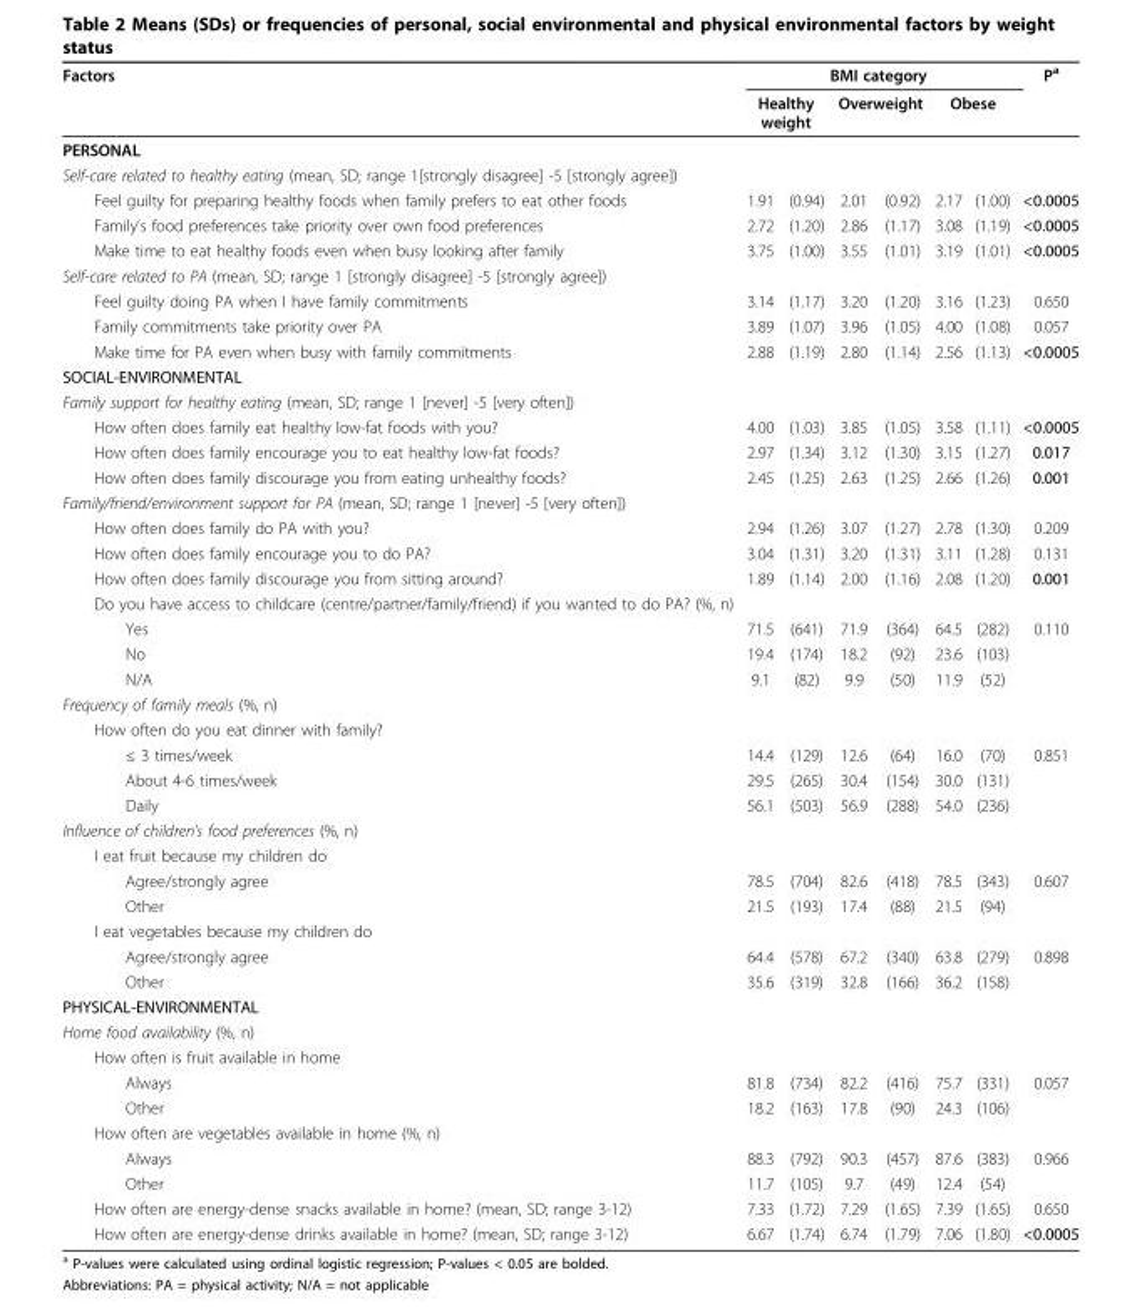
<table><thead><tr><td rowspan="3">Factors PERSONAL</td><td colspan="6">BMI category</td><td rowspan="3">P<sup>a</sup></td></tr><tr><td colspan="2">Healthy weight</td><td colspan="2">Overweight</td><td colspan="2">Obese</td></tr><tr><td></td><td></td><td></td><td></td><td></td><td></td></tr></thead><tbody><tr><td colspan="8">Self-care related to healthy eating (mean, SD; range 1[strongly disagree] -5 [strongly agree])</td></tr><tr><td>Feel guilty for preparing healthy foods when family prefers to eat other foods</td><td>1.91</td><td>(0.94)</td><td>2.01</td><td>(0.92)</td><td>2.17</td><td>(1.00)</td><td>&lt;0.0005</td></tr><tr><td>Family’s food preferences take priority over own food preferences</td><td>2.72</td><td>(1.20)</td><td>2.86</td><td>(1.17)</td><td>3.08</td><td>(1.19)</td><td>&lt;0.0005</td></tr><tr><td>Make time to eat healthy foods even when busy looking after family</td><td>3.75</td><td>(1.00)</td><td>3.55</td><td>(1.01)</td><td>3.19</td><td>(1.01)</td><td>&lt;0.0005</td></tr><tr><td colspan="8">Self-care related to PA (mean, SD; range 1 [strongly disagree] -5 [strongly agree])</td></tr><tr><td>Feel guilty doing PA when I have family commitments</td><td>3.14</td><td>(1.17)</td><td>3.20</td><td>(1.20)</td><td>3.16</td><td>(1.23)</td><td>0.650</td></tr><tr><td>Family commitments take priority over PA</td><td>3.89</td><td>(1.07)</td><td>3.96</td><td>(1.05)</td><td>4.00</td><td>(1.08)</td><td>0.057</td></tr><tr><td>Make time for PA even when busy with family commitments</td><td>2.88</td><td>(1.19)</td><td>2.80</td><td>(1.14)</td><td>2.56</td><td>(1.13)</td><td>&lt;0.0005</td></tr><tr><td colspan="8">SOCIAL-ENVIRONMENTAL</td></tr><tr><td colspan="8">Family support for healthy eating (mean, SD; range 1 [never] -5 [very often])</td></tr><tr><td>How often does family eat healthy low-fat foods with you?</td><td>4.00</td><td>(1.03)</td><td>3.85</td><td>(1.05)</td><td>3.58</td><td>(1.11)</td><td>&lt;0.0005</td></tr><tr><td>How often does family encourage you to eat healthy low-fat foods?</td><td>2.97</td><td>(1.34)</td><td>3.12</td><td>(1.30)</td><td>3.15</td><td>(1.27)</td><td>0.017</td></tr><tr><td>How often does family discourage you from eating unhealthy foods?</td><td>2.45</td><td>(1.25)</td><td>2.63</td><td>(1.25)</td><td>2.66</td><td>(1.26)</td><td>0.001</td></tr><tr><td colspan="8">Family/friend/environment support for PA (mean, SD; range 1 [never] -5 [very often])</td></tr><tr><td>How often does family do PA with you?</td><td>2.94</td><td>(1.26)</td><td>3.07</td><td>(1.27)</td><td>2.78</td><td>(1.30)</td><td>0.209</td></tr><tr><td>How often does family encourage you to do PA?</td><td>3.04</td><td>(1.31)</td><td>3.20</td><td>(1.31)</td><td>3.11</td><td>(1.28)</td><td>0.131</td></tr><tr><td>How often does family discourage you from sitting around?</td><td>1.89</td><td>(1.14)</td><td>2.00</td><td>(1.16)</td><td>2.08</td><td>(1.20)</td><td>0.001</td></tr><tr><td colspan="8">Do you have access to childcare (centre/partner/family/friend) if you wanted to do PA? (%, n)</td></tr><tr><td>Yes</td><td>71.5</td><td>(641)</td><td>71.9</td><td>(364)</td><td>64.5</td><td>(282)</td><td>0.110</td></tr><tr><td>No</td><td>19.4</td><td>(174)</td><td>18.2</td><td>(92)</td><td>23.6</td><td>(103)</td><td></td></tr><tr><td>N/A</td><td>9.1</td><td>(82)</td><td>9.9</td><td>(50)</td><td>11.9</td><td>(52)</td><td></td></tr><tr><td colspan="8">Frequency of family meals (%, n)</td></tr><tr><td colspan="8">How often do you eat dinner with family?</td></tr><tr><td>≤ 3 times/week</td><td>14.4</td><td>(129)</td><td>12.6</td><td>(64)</td><td>16.0</td><td>(70)</td><td>0.851</td></tr><tr><td>About 4-6 times/week</td><td>29.5</td><td>(265)</td><td>30.4</td><td>(154)</td><td>30.0</td><td>(131)</td><td></td></tr><tr><td>Daily</td><td>56.1</td><td>(503)</td><td>56.9</td><td>(288)</td><td>54.0</td><td>(236)</td><td></td></tr><tr><td colspan="8">Influence of children’s food preferences (%, n)</td></tr><tr><td colspan="8">I eat fruit because my children do</td></tr><tr><td>Agree/strongly agree</td><td>78.5</td><td>(704)</td><td>82.6</td><td>(418)</td><td>78.5</td><td>(343)</td><td>0.607</td></tr><tr><td>Other</td><td>21.5</td><td>(193)</td><td>17.4</td><td>(88)</td><td>21.5</td><td>(94)</td><td></td></tr><tr><td colspan="8">I eat vegetables because my children do</td></tr><tr><td>Agree/strongly agree</td><td>64.4</td><td>(578)</td><td>67.2</td><td>(340)</td><td>63.8</td><td>(279)</td><td>0.898</td></tr><tr><td>Other</td><td>35.6</td><td>(319)</td><td>32.8</td><td>(166)</td><td>36.2</td><td>(158)</td><td></td></tr><tr><td colspan="8">PHYSICAL-ENVIRONMENTAL</td></tr><tr><td colspan="8">Home food availability (%, n)</td></tr><tr><td colspan="8">How often is fruit available in home</td></tr><tr><td>Always</td><td>81.8</td><td>(734)</td><td>82.2</td><td>(416)</td><td>75.7</td><td>(331)</td><td>0.057</td></tr><tr><td>Other</td><td>18.2</td><td>(163)</td><td>17.8</td><td>(90)</td><td>24.3</td><td>(106)</td><td></td></tr><tr><td colspan="8">How often are vegetables available in home (%, n)</td></tr><tr><td>Always</td><td>88.3</td><td>(792)</td><td>90.3</td><td>(457)</td><td>87.6</td><td>(383)</td><td>0.966</td></tr><tr><td>Other</td><td>11.7</td><td>(105)</td><td>9.7</td><td>(49)</td><td>12.4</td><td>(54)</td><td></td></tr><tr><td>How often are energy-dense snacks available in home? (mean, SD; range 3-12)</td><td>7.33</td><td>(1.72)</td><td>7.29</td><td>(1.65)</td><td>7.39</td><td>(1.65)</td><td>0.650</td></tr><tr><td>How often are energy-dense drinks available in home? (mean, SD; range 3-12)</td><td>6.67</td><td>(1.74)</td><td>6.74</td><td>(1.79)</td><td>7.06</td><td>(1.80)</td><td>&lt;0.0005</td></tr></tbody></table>